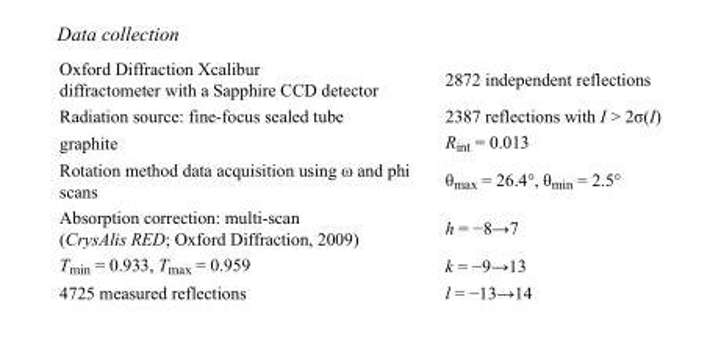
<table><tbody><tr><td>Oxford Diffraction Xcalibur diffractometer with a Sapphire CCD detector</td><td>2872 independent reflections</td></tr><tr><td>Radiation source: fine-focus sealed tube</td><td>2387 reflections with I &gt; 2σ(I)</td></tr><tr><td>graphite</td><td>R<sub>int</sub> = 0.013</td></tr><tr><td>Rotation method data acquisition using ω and phi scans</td><td>θ<sub>max</sub> = 26.4°, θ<sub>min</sub> = 2.5°</td></tr><tr><td>Absorption correction: multi-scan (CrysAlis RED; Oxford Diffraction, 2009)</td><td>h = −8→7</td></tr><tr><td>T<sub>min</sub> = 0.933, T<sub>max</sub> = 0.959</td><td>k = −9→13</td></tr><tr><td>4725 measured reflections</td><td>l = −13→14</td></tr></tbody></table>